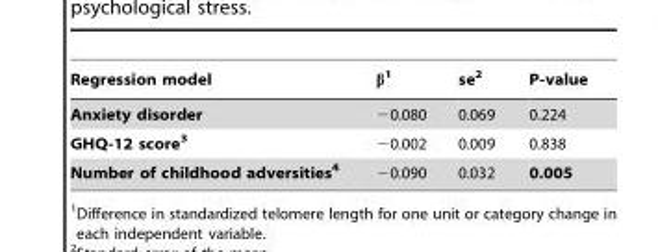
<table><thead><tr><td>Regression model</td><td>β<sup>1</sup></td><td>se<sup>2</sup></td><td>P-value</td></tr></thead><tbody><tr><td>Anxiety disorder</td><td>−0.080</td><td>0.069</td><td>0.224</td></tr><tr><td>GHQ-12 score3</td><td>−0.002</td><td>0.009</td><td>0.838</td></tr><tr><td>Number of childhood adversities4</td><td>−0.090</td><td>0.032</td><td>0.005</td></tr></tbody></table>